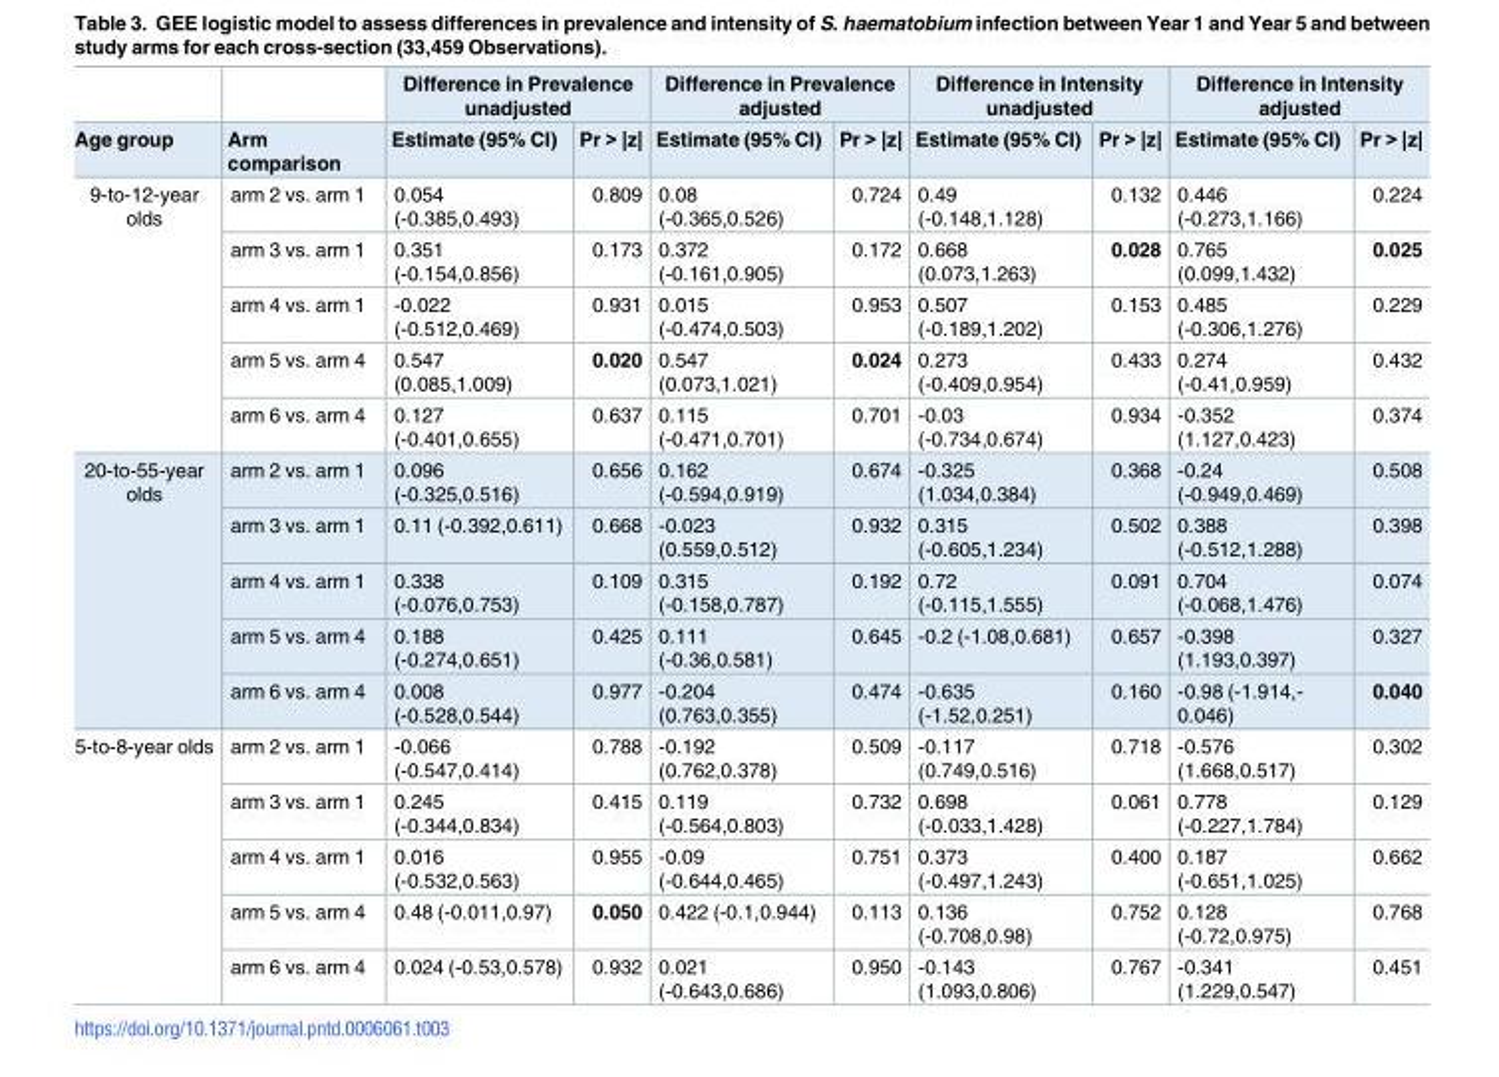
<table><thead><tr><td rowspan="2">Age group</td><td rowspan="2">Arm comparison</td><td colspan="2">Difference in Prevalence unadjusted</td><td colspan="2">Difference in Prevalence adjusted</td><td colspan="2">Difference in Intensity unadjusted</td><td colspan="2">Difference in Intensity adjusted</td></tr><tr><td>Estimate (95% CI)</td><td>Pr &gt; |z|</td><td>Estimate (95% CI)</td><td>Pr &gt; |z|</td><td>Estimate (95% CI)</td><td>Pr &gt; |z|</td><td>Estimate (95% CI)</td><td>Pr &gt; |z|</td></tr></thead><tbody><tr><td rowspan="5">9-to-12-year olds</td><td>arm 2 vs. arm 1</td><td>0.054 (-0.385,0.493)</td><td>0.809</td><td>0.08 (-0.365,0.526)</td><td>0.724</td><td>0.49 (-0.148,1.128)</td><td>0.132</td><td>0.446 (-0.273,1.166)</td><td>0.224</td></tr><tr><td>arm 3 vs. arm 1</td><td>0.351 (-0.154,0.856)</td><td>0.173</td><td>0.372 (-0.161,0.905)</td><td>0.172</td><td>0.668 (0.073,1.263)</td><td>0.028</td><td>0.765 (0.099,1.432)</td><td>0.025</td></tr><tr><td>arm 4 vs. arm 1</td><td>-0.022 (-0.512,0.469)</td><td>0.931</td><td>0.015 (-0.474,0.503)</td><td>0.953</td><td>0.507 (-0.189,1.202)</td><td>0.153</td><td>0.485 (-0.306,1.276)</td><td>0.229</td></tr><tr><td>arm 5 vs. arm 4</td><td>0.547 (0.085,1.009)</td><td>0.020</td><td>0.547 (0.073,1.021)</td><td>0.024</td><td>0.273 (-0.409,0.954)</td><td>0.433</td><td>0.274 (-0.41,0.959)</td><td>0.432</td></tr><tr><td>arm 6 vs. arm 4</td><td>0.127 (-0.401,0.655)</td><td>0.637</td><td>0.115 (-0.471,0.701)</td><td>0.701</td><td>-0.03 (-0.734,0.674)</td><td>0.934</td><td>-0.352 (1.127,0.423)</td><td>0.374</td></tr><tr><td rowspan="5">20-to-55-year olds</td><td>arm 2 vs. arm 1</td><td>0.096 (-0.325,0.516)</td><td>0.656</td><td>0.162 (-0.594,0.919)</td><td>0.674</td><td>-0.325 (1.034,0.384)</td><td>0.368</td><td>-0.24 (-0.949,0.469)</td><td>0.508</td></tr><tr><td>arm 3 vs. arm 1</td><td>0.11 (-0.392,0.611)</td><td>0.668</td><td>-0.023 (0.559,0.512)</td><td>0.932</td><td>0.315 (-0.605,1.234)</td><td>0.502</td><td>0.388 (-0.512,1.288)</td><td>0.398</td></tr><tr><td>arm 4 vs. arm 1</td><td>0.338 (-0.076,0.753)</td><td>0.109</td><td>0.315 (-0.158,0.787)</td><td>0.192</td><td>0.72 (-0.115,1.555)</td><td>0.091</td><td>0.704 (-0.068,1.476)</td><td>0.074</td></tr><tr><td>arm 5 vs. arm 4</td><td>0.188 (-0.274,0.651)</td><td>0.425</td><td>0.111 (-0.36,0.581)</td><td>0.645</td><td>-0.2 (-1.08,0.681)</td><td>0.657</td><td>-0.398 (1.193,0.397)</td><td>0.327</td></tr><tr><td>arm 6 vs. arm 4</td><td>0.008 (-0.528,0.544)</td><td>0.977</td><td>-0.204 (0.763,0.355)</td><td>0.474</td><td>-0.635 (-1.52,0.251)</td><td>0.160</td><td>-0.98 (-1.914,- 0.046)</td><td>0.040</td></tr><tr><td rowspan="5">5-to-8-year olds</td><td>arm 2 vs. arm 1</td><td>-0.066 (-0.547,0.414)</td><td>0.788</td><td>-0.192 (0.762,0.378)</td><td>0.509</td><td>-0.117 (0.749,0.516)</td><td>0.718</td><td>-0.576 (1.668,0.517)</td><td>0.302</td></tr><tr><td>arm 3 vs. arm 1</td><td>0.245 (-0.344,0.834)</td><td>0.415</td><td>0.119 (-0.564,0.803)</td><td>0.732</td><td>0.698 (-0.033,1.428)</td><td>0.061</td><td>0.778 (-0.227,1.784)</td><td>0.129</td></tr><tr><td>arm 4 vs. arm 1</td><td>0.016 (-0.532,0.563)</td><td>0.955</td><td>-0.09 (-0.644,0.465)</td><td>0.751</td><td>0.373 (-0.497,1.243)</td><td>0.400</td><td>0.187 (-0.651,1.025)</td><td>0.662</td></tr><tr><td>arm 5 vs. arm 4</td><td>0.48 (-0.011,0.97)</td><td>0.050</td><td>0.422 (-0.1,0.944)</td><td>0.113</td><td>0.136 (-0.708,0.98)</td><td>0.752</td><td>0.128 (-0.72,0.975)</td><td>0.768</td></tr><tr><td>arm 6 vs. arm 4</td><td>0.024 (-0.53,0.578)</td><td>0.932</td><td>0.021 (-0.643,0.686)</td><td>0.950</td><td>-0.143 (1.093,0.806)</td><td>0.767</td><td>-0.341 (1.229,0.547)</td><td>0.451</td></tr></tbody></table>